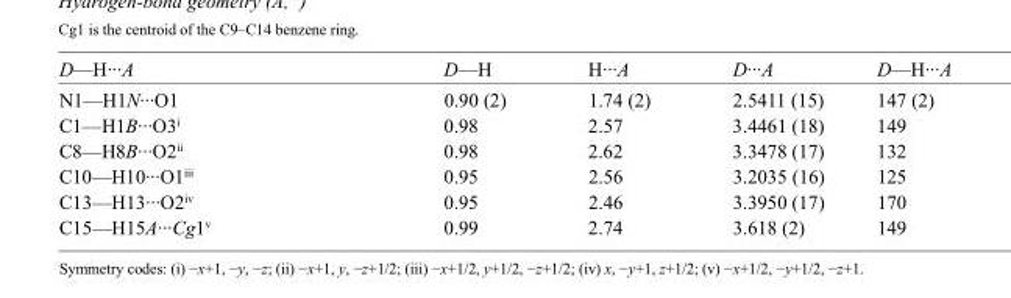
<table><tbody><tr><td>D—H···A</td><td>D—H</td><td>H···A</td><td>D···A</td><td>D—H···A</td></tr><tr><td>N1—H1N···O1</td><td>0.90 (2)</td><td>1.74 (2)</td><td>2.5411 (15)</td><td>147 (2)</td></tr><tr><td>C1—H1B···O3<sup>i</sup></td><td>0.98</td><td>2.57</td><td>3.4461 (18)</td><td>149</td></tr><tr><td>C8—H8B···O2<sup>ii</sup></td><td>0.98</td><td>2.62</td><td>3.3478 (17)</td><td>132</td></tr><tr><td>C10—H10···O1<sup>iii</sup></td><td>0.95</td><td>2.56</td><td>3.2035 (16)</td><td>125</td></tr><tr><td>C13—H13···O2<sup>iv</sup></td><td>0.95</td><td>2.46</td><td>3.3950 (17)</td><td>170</td></tr><tr><td>C15—H15A···Cg1<sup>v</sup></td><td>0.99</td><td>2.74</td><td>3.618 (2)</td><td>149</td></tr></tbody></table>